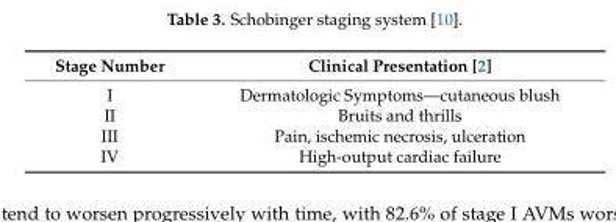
<table><thead><tr><td>Stage Number</td><td>Clinical Presentation [2]</td></tr></thead><tbody><tr><td>I</td><td>Dermatologic Symptoms—cutaneous blush</td></tr><tr><td>II</td><td>Bruits and thrills</td></tr><tr><td>III</td><td>Pain, ischemic necrosis, ulceration</td></tr><tr><td>IV</td><td>High-output cardiac failure</td></tr></tbody></table>